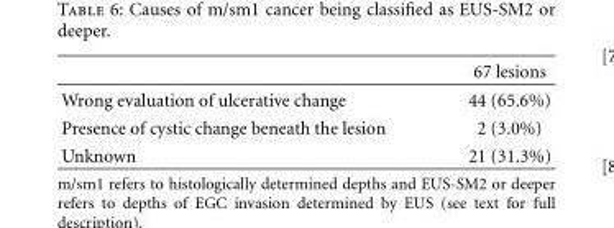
<table><thead><tr><td></td><td>67 lesions</td></tr></thead><tbody><tr><td>Wrong evaluation of ulcerative change</td><td>44 (65.6%)</td></tr><tr><td>Presence of cystic change beneath the lesion</td><td>2 (3.0%)</td></tr><tr><td>Unknown</td><td>21 (31.3%)</td></tr></tbody></table>